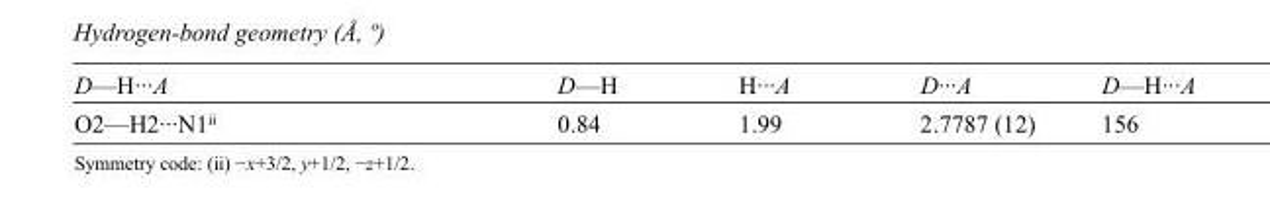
<table><tbody><tr><td>D—H···A</td><td>D—H</td><td>H···A</td><td>D···A</td><td>D—H···A</td></tr><tr><td>O2—H2···N1<sup>ii</sup></td><td>0.84</td><td>1.99</td><td>2.7787 (12)</td><td>156</td></tr></tbody></table>